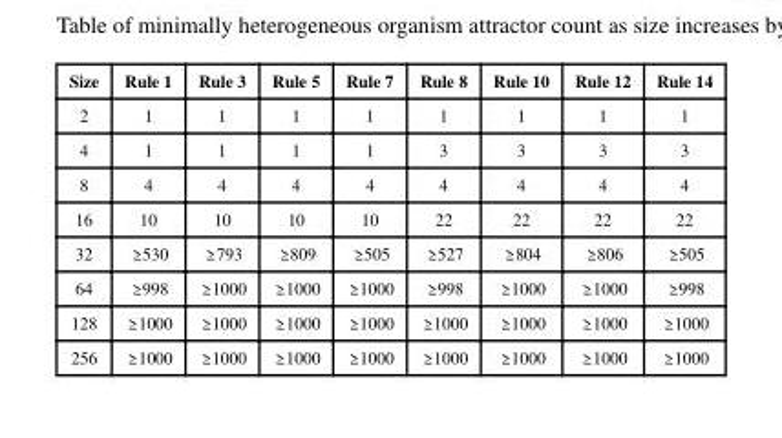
<table><thead><tr><td>Size</td><td>Rule 1</td><td>Rule 3</td><td>Rule 5</td><td>Rule 7</td><td>Rule 8</td><td>Rule 10</td><td>Rule 12</td><td>Rule 14</td></tr></thead><tbody><tr><td>2</td><td>1</td><td>1</td><td>1</td><td>1</td><td>1</td><td>1</td><td>1</td><td>1</td></tr><tr><td>4</td><td>1</td><td>1</td><td>1</td><td>1</td><td>3</td><td>3</td><td>3</td><td>3</td></tr><tr><td>8</td><td>4</td><td>4</td><td>4</td><td>4</td><td>4</td><td>4</td><td>4</td><td>4</td></tr><tr><td>16</td><td>10</td><td>10</td><td>10</td><td>10</td><td>22</td><td>22</td><td>22</td><td>22</td></tr><tr><td>32</td><td>≥ 530</td><td>≥ 793</td><td>≥ 809</td><td>≥ 505</td><td>≥ 527</td><td>≥ 804</td><td>≥ 806</td><td>≥ 505</td></tr><tr><td>64</td><td>≥ 998</td><td>≥ 1000</td><td>≥ 1000</td><td>≥ 1000</td><td>≥ 998</td><td>≥ 1000</td><td>≥ 1000</td><td>≥ 998</td></tr><tr><td>128</td><td>≥ 1000</td><td>≥ 1000</td><td>≥ 1000</td><td>≥ 1000</td><td>≥ 1000</td><td>≥ 1000</td><td>≥ 1000</td><td>≥ 1000</td></tr><tr><td>256</td><td>≥ 1000</td><td>≥ 1000</td><td>≥ 1000</td><td>≥ 1000</td><td>≥ 1000</td><td>≥ 1000</td><td>≥ 1000</td><td>≥ 1000</td></tr></tbody></table>